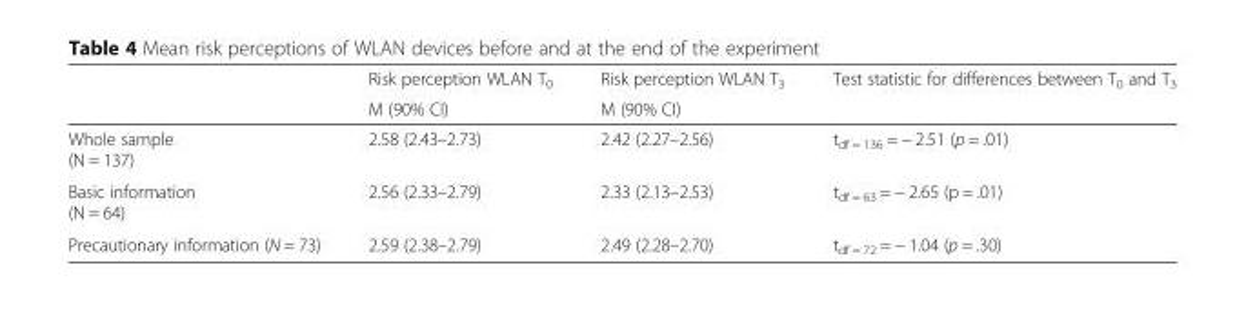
<table><thead><tr><td rowspan="2"></td><td rowspan="2">Risk perception WLAN T<sub>0</sub> M (90% CI)</td><td rowspan="2">Risk perception WLAN T<sub>3</sub> M (90% CI)</td><td rowspan="2">Test statistic for differences between T<sub>0</sub> and T<sub>3</sub></td></tr><tr></tr></thead><tbody><tr><td>Whole sample (N = 137)</td><td>2.58 (2.43–2.73)</td><td>2.42 (2.27–2.56)</td><td>t<sub>df = 136</sub> = − 2.51 (p = .01)</td></tr><tr><td>Basic information (N = 64)</td><td>2.56 (2.33–2.79)</td><td>2.33 (2.13–2.53)</td><td>t<sub>df = 63</sub> = − 2.65 (p = .01)</td></tr><tr><td>Precautionary information (N = 73)</td><td>2.59 (2.38–2.79)</td><td>2.49 (2.28–2.70)</td><td>t<sub>df = 72</sub> = − 1.04 (p = .30)</td></tr></tbody></table>